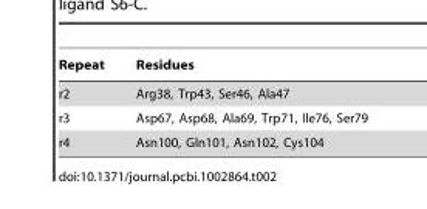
<table><thead><tr><td>Repeat</td><td>Residues</td></tr></thead><tbody><tr><td>r2</td><td>Arg38, Trp43, Ser46, Ala47</td></tr><tr><td>r3</td><td>Asp67, Asp68, Ala69, Trp71, Ile76, Ser79</td></tr><tr><td>r4</td><td>Asn100, Gln101, Asn102, Cys104</td></tr></tbody></table>